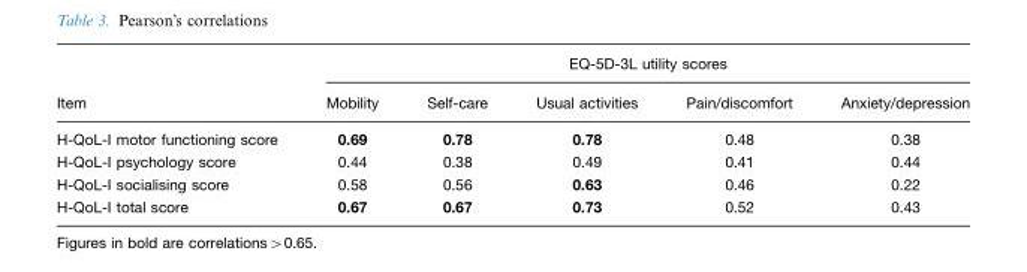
<table><thead><tr><td rowspan="2">Item</td><td colspan="5">EQ-5D-3L utility scores</td></tr><tr><td>Mobility</td><td>Self-care</td><td>Usual activities</td><td>Pain/discomfort</td><td>Anxiety/depression</td></tr></thead><tbody><tr><td>H-QoL-I motor functioning score</td><td>0.69</td><td>0.78</td><td>0.78</td><td>0.48</td><td>0.38</td></tr><tr><td>H-QoL-I psychology score</td><td>0.44</td><td>0.38</td><td>0.49</td><td>0.41</td><td>0.44</td></tr><tr><td>H-QoL-I socialising score</td><td>0.58</td><td>0.56</td><td>0.63</td><td>0.46</td><td>0.22</td></tr><tr><td>H-QoL-I total score</td><td>0.67</td><td>0.67</td><td>0.73</td><td>0.52</td><td>0.43</td></tr></tbody></table>